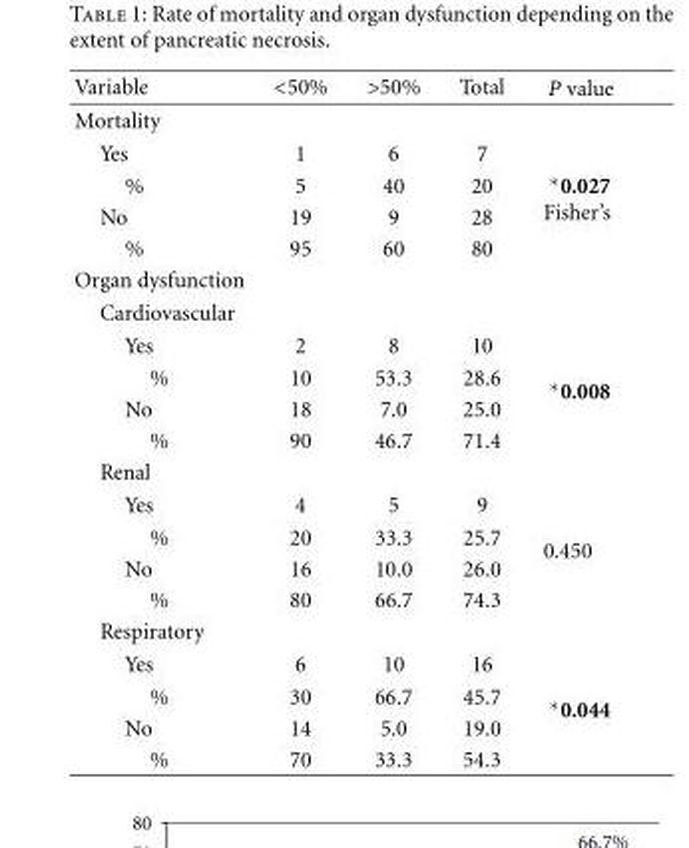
<table><thead><tr><td>Variable</td><td>&lt;50%</td><td>&gt;50%</td><td>Total</td><td>P value</td></tr></thead><tbody><tr><td colspan="5">Mortality</td></tr><tr><td>Yes</td><td>1</td><td>6</td><td>7</td><td rowspan="4">∗0.027 Fisher’s</td></tr><tr><td>%</td><td>5</td><td>40</td><td>20</td></tr><tr><td>No</td><td>19</td><td>9</td><td>28</td></tr><tr><td>%</td><td>95</td><td>60</td><td>80</td></tr><tr><td colspan="5">Organ dysfunction</td></tr><tr><td colspan="5">Cardiovascular</td></tr><tr><td>Yes</td><td>2</td><td>8</td><td>10</td><td rowspan="4">∗0.008</td></tr><tr><td>%</td><td>10</td><td>53.3</td><td>28.6</td></tr><tr><td>No</td><td>18</td><td>7.0</td><td>25.0</td></tr><tr><td>%</td><td>90</td><td>46.7</td><td>71.4</td></tr><tr><td colspan="5">Renal</td></tr><tr><td>Yes</td><td>4</td><td>5</td><td>9</td><td rowspan="4">0.450</td></tr><tr><td>%</td><td>20</td><td>33.3</td><td>25.7</td></tr><tr><td>No</td><td>16</td><td>10.0</td><td>26.0</td></tr><tr><td>%</td><td>80</td><td>66.7</td><td>74.3</td></tr><tr><td colspan="5">Respiratory</td></tr><tr><td>Yes</td><td>6</td><td>10</td><td>16</td><td rowspan="4">∗0.044</td></tr><tr><td>%</td><td>30</td><td>66.7</td><td>45.7</td></tr><tr><td>No</td><td>14</td><td>5.0</td><td>19.0</td></tr><tr><td>%</td><td>70</td><td>33.3</td><td>54.3</td></tr></tbody></table>